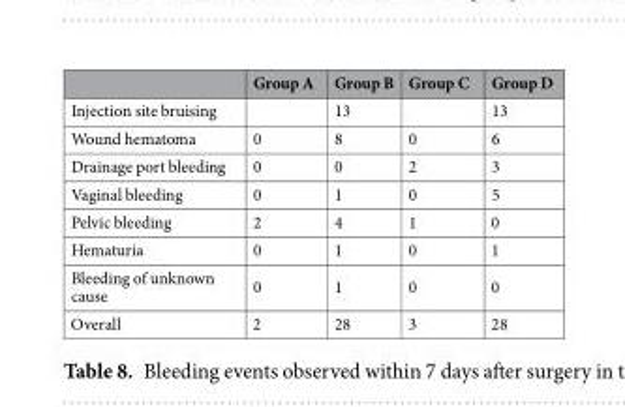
<table><thead><tr><td></td><td>Group A</td><td>Group B</td><td>Group C</td><td>Group D</td></tr></thead><tbody><tr><td>Injection site bruising</td><td></td><td>13</td><td></td><td>13</td></tr><tr><td>Wound hematoma</td><td>0</td><td>8</td><td>0</td><td>6</td></tr><tr><td>Drainage port bleeding</td><td>0</td><td>0</td><td>2</td><td>3</td></tr><tr><td>Vaginal bleeding</td><td>0</td><td>1</td><td>0</td><td>5</td></tr><tr><td>Pelvic bleeding</td><td>2</td><td>4</td><td>1</td><td>0</td></tr><tr><td>Hematuria</td><td>0</td><td>1</td><td>0</td><td>1</td></tr><tr><td>Bleeding of unknown cause</td><td>0</td><td>1</td><td>0</td><td>0</td></tr><tr><td>Overall</td><td>2</td><td>28</td><td>3</td><td>28</td></tr></tbody></table>